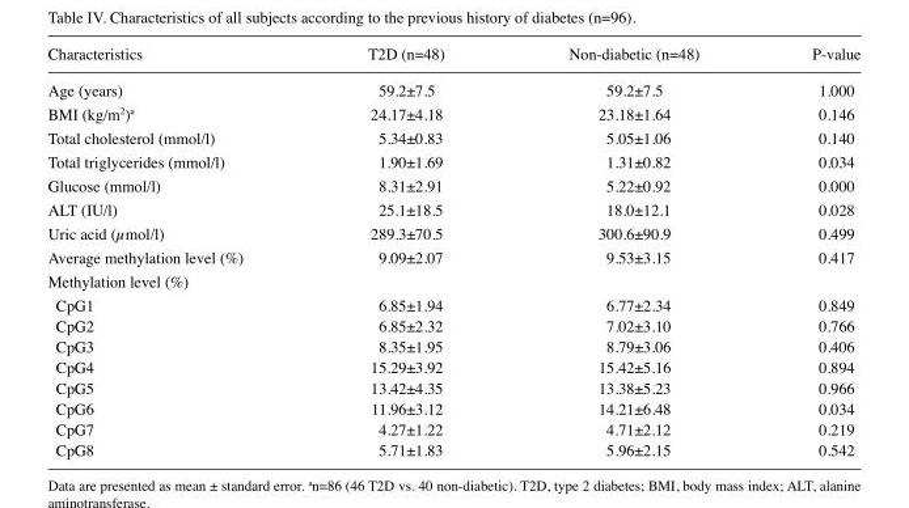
<table><thead><tr><td>Characteristics</td><td>T2D (n=48)</td><td>Non-diabetic (n=48)</td><td>P-value</td></tr></thead><tbody><tr><td>Age (years)</td><td>59.2±7.5</td><td>59.2±7.5</td><td>1.000</td></tr><tr><td>BMI (kg/m<sup>2</sup>)<sup>a</sup></td><td>24.17±4.18</td><td>23.18±1.64</td><td>0.146</td></tr><tr><td>Total cholesterol (mmol/l)</td><td>5.34±0.83</td><td>5.05±1.06</td><td>0.140</td></tr><tr><td>Total triglycerides (mmol/l)</td><td>1.90±1.69</td><td>1.31±0.82</td><td>0.034</td></tr><tr><td>Glucose (mmol/l)</td><td>8.31±2.91</td><td>5.22±0.92</td><td>0.000</td></tr><tr><td>ALT (IU/l)</td><td>25.1±18.5</td><td>18.0±12.1</td><td>0.028</td></tr><tr><td>Uric acid (µmol/l)</td><td>289.3±70.5</td><td>300.6±90.9</td><td>0.499</td></tr><tr><td>Average methylation level (%)</td><td>9.09±2.07</td><td>9.53±3.15</td><td>0.417</td></tr><tr><td colspan="4">Methylation level (%)</td></tr><tr><td>CpG1</td><td>6.85±1.94</td><td>6.77±2.34</td><td>0.849</td></tr><tr><td>CpG2</td><td>6.85±2.32</td><td>7.02±3.10</td><td>0.766</td></tr><tr><td>CpG3</td><td>8.35±1.95</td><td>8.79±3.06</td><td>0.406</td></tr><tr><td>CpG4</td><td>15.29±3.92</td><td>15.42±5.16</td><td>0.894</td></tr><tr><td>CpG5</td><td>13.42±4.35</td><td>13.38±5.23</td><td>0.966</td></tr><tr><td>CpG6</td><td>11.96±3.12</td><td>14.21±6.48</td><td>0.034</td></tr><tr><td>CpG7</td><td>4.27±1.22</td><td>4.71±2.12</td><td>0.219</td></tr><tr><td>CpG8</td><td>5.71±1.83</td><td>5.96±2.15</td><td>0.542</td></tr></tbody></table>